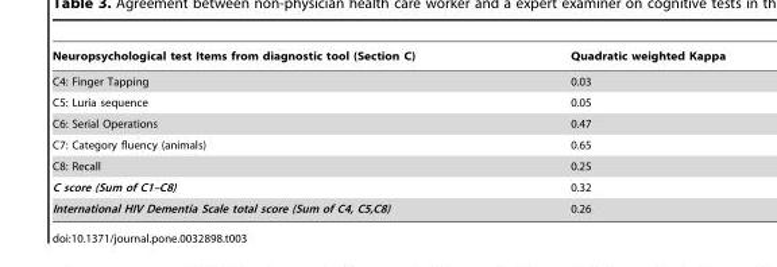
<table><thead><tr><td>Neuropsychological test Items from diagnostic tool (Section C)</td><td>Quadratic weighted Kappa</td></tr></thead><tbody><tr><td>C4: Finger Tapping</td><td>0.03</td></tr><tr><td>C5: Luria sequence</td><td>0.05</td></tr><tr><td>C6: Serial Operations</td><td>0.47</td></tr><tr><td>C7: Category fluency (animals)</td><td>0.65</td></tr><tr><td>C8: Recall</td><td>0.25</td></tr><tr><td>C score (Sum of C1–C8)</td><td>0.32</td></tr><tr><td>International HIV Dementia Scale total score (Sum of C4, C5,C8)</td><td>0.26</td></tr></tbody></table>